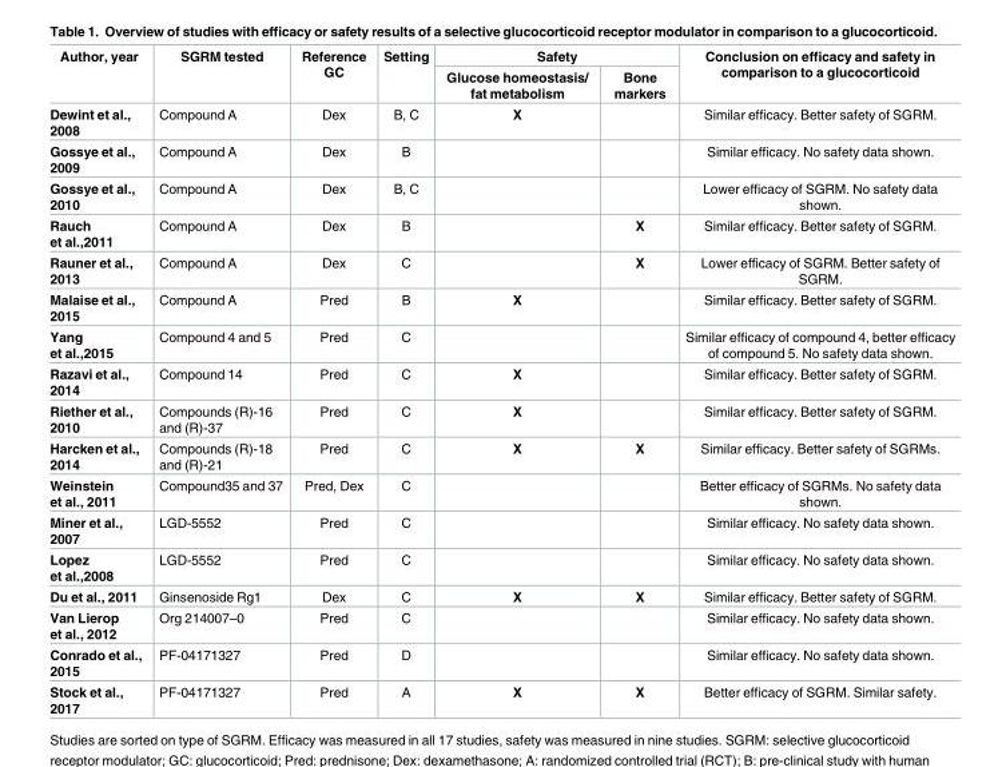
<table><thead><tr><td rowspan="2">Author, year</td><td rowspan="2">SGRM tested</td><td rowspan="2">Reference GC</td><td rowspan="2">Setting</td><td colspan="2">Safety</td><td rowspan="2">Conclusion on efficacy and safety in comparison to a glucocorticoid</td></tr><tr><td>Glucose homeostasis/ fat metabolism</td><td>Bone markers</td></tr></thead><tbody><tr><td>Dewint et al., 2008</td><td>Compound A</td><td>Dex</td><td>B, C</td><td>X</td><td></td><td>Similar efficacy. Better safety of SGRM.</td></tr><tr><td>Gossye et al., 2009</td><td>Compound A</td><td>Dex</td><td>B</td><td></td><td></td><td>Similar efficacy. No safety data shown.</td></tr><tr><td>Gossye et al., 2010</td><td>Compound A</td><td>Dex</td><td>B, C</td><td></td><td></td><td>Lower efficacy of SGRM. No safety data shown.</td></tr><tr><td>Rauch et al.,2011</td><td>Compound A</td><td>Dex</td><td>B</td><td></td><td>X</td><td>Similar efficacy. Better safety of SGRM.</td></tr><tr><td>Rauner et al., 2013</td><td>Compound A</td><td>Dex</td><td>C</td><td></td><td>X</td><td>Lower efficacy of SGRM. Better safety of SGRM.</td></tr><tr><td>Malaise et al., 2015</td><td>Compound A</td><td>Pred</td><td>B</td><td>X</td><td></td><td>Similar efficacy. Better safety of SGRM.</td></tr><tr><td>Yang et al.,2015</td><td>Compound 4 and 5</td><td>Pred</td><td>C</td><td></td><td></td><td>Similar efficacy of compound 4, better efficacy of compound 5. No safety data shown.</td></tr><tr><td>Razavi et al., 2014</td><td>Compound 14</td><td>Pred</td><td>C</td><td>X</td><td></td><td>Similar efficacy. Better safety of SGRM.</td></tr><tr><td>Riether et al., 2010</td><td>Compounds (R)-16 and (R)-37</td><td>Pred</td><td>C</td><td>X</td><td></td><td>Similar efficacy. Better safety of SGRM.</td></tr><tr><td>Harcken et al., 2014</td><td>Compounds (R)-18 and (R)-21</td><td>Pred</td><td>C</td><td>X</td><td>X</td><td>Similar efficacy. Better safety of SGRMs.</td></tr><tr><td>Weinstein et al., 2011</td><td>Compound35 and 37</td><td>Pred, Dex</td><td>C</td><td></td><td></td><td>Better efficacy of SGRMs. No safety data shown.</td></tr><tr><td>Miner et al., 2007</td><td>LGD-5552</td><td>Pred</td><td>C</td><td></td><td></td><td>Similar efficacy. No safety data shown.</td></tr><tr><td>Lopez et al.,2008</td><td>LGD-5552</td><td>Pred</td><td>C</td><td></td><td></td><td>Similar efficacy. No safety data shown.</td></tr><tr><td>Du et al., 2011</td><td>Ginsenoside Rg1</td><td>Dex</td><td>C</td><td>X</td><td>X</td><td>Similar efficacy. Better safety of SGRM.</td></tr><tr><td>Van Lierop et al., 2012</td><td>Org 214007–0</td><td>Pred</td><td>C</td><td></td><td></td><td>Similar efficacy. No safety data shown.</td></tr><tr><td>Conrado et al., 2015</td><td>PF-04171327</td><td>Pred</td><td>D</td><td></td><td></td><td>Similar efficacy. No safety data shown.</td></tr><tr><td>Stock et al., 2017</td><td>PF-04171327</td><td>Pred</td><td>A</td><td>X</td><td>X</td><td>Better efficacy of SGRM. Similar safety.</td></tr></tbody></table>